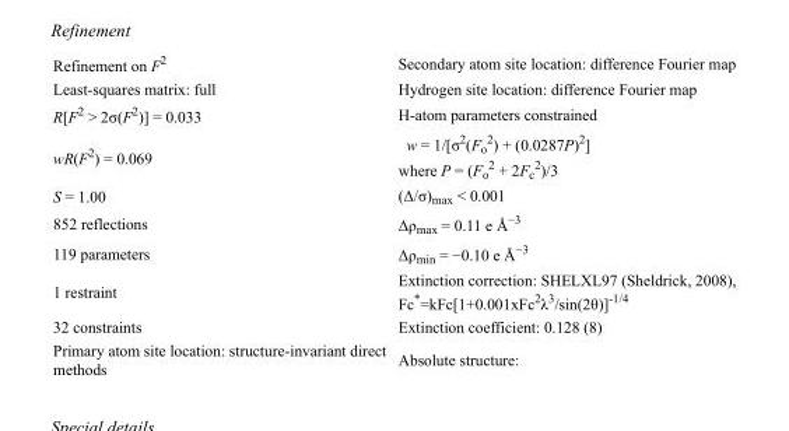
<table><tbody><tr><td>Refinement on F<sup>2</sup></td><td>Secondary atom site location: difference Fourier map</td></tr><tr><td>Least-squares matrix: full</td><td>Hydrogen site location: difference Fourier map</td></tr><tr><td>R[F<sup>2</sup> &gt; 2σ(F<sup>2</sup>)] = 0.033</td><td>H-atom parameters constrained</td></tr><tr><td>wR(F<sup>2</sup>) = 0.069</td><td>w = 1/[σ<sup>2</sup>(F<sub>o</sub> <sup>2</sup>) + (0.0287P)<sup>2</sup>] where P = (F<sub>o</sub> <sup>2</sup> + 2F<sub>c</sub> <sup>2</sup>)/3</td></tr><tr><td>S = 1.00</td><td>(Δ/σ)<sub>max</sub> &lt; 0.001</td></tr><tr><td>852 reflections</td><td>Δρ<sub>max</sub> = 0.11 e Å<sup>−3</sup></td></tr><tr><td>119 parameters</td><td>Δρ<sub>min</sub> = −0.10 e Å<sup>−3</sup></td></tr><tr><td>1 restraint</td><td>Extinction correction: SHELXL97 (Sheldrick, 2008), Fc*=kFc[1+0.001xFc<sup>2</sup>λ<sup>3</sup>/sin(2θ)]<sup>-1/4</sup></td></tr><tr><td>32 constraints</td><td>Extinction coefficient: 0.128 (8)</td></tr><tr><td>Primary atom site location: structure-invariant direct methods</td><td>Absolute structure:</td></tr></tbody></table>